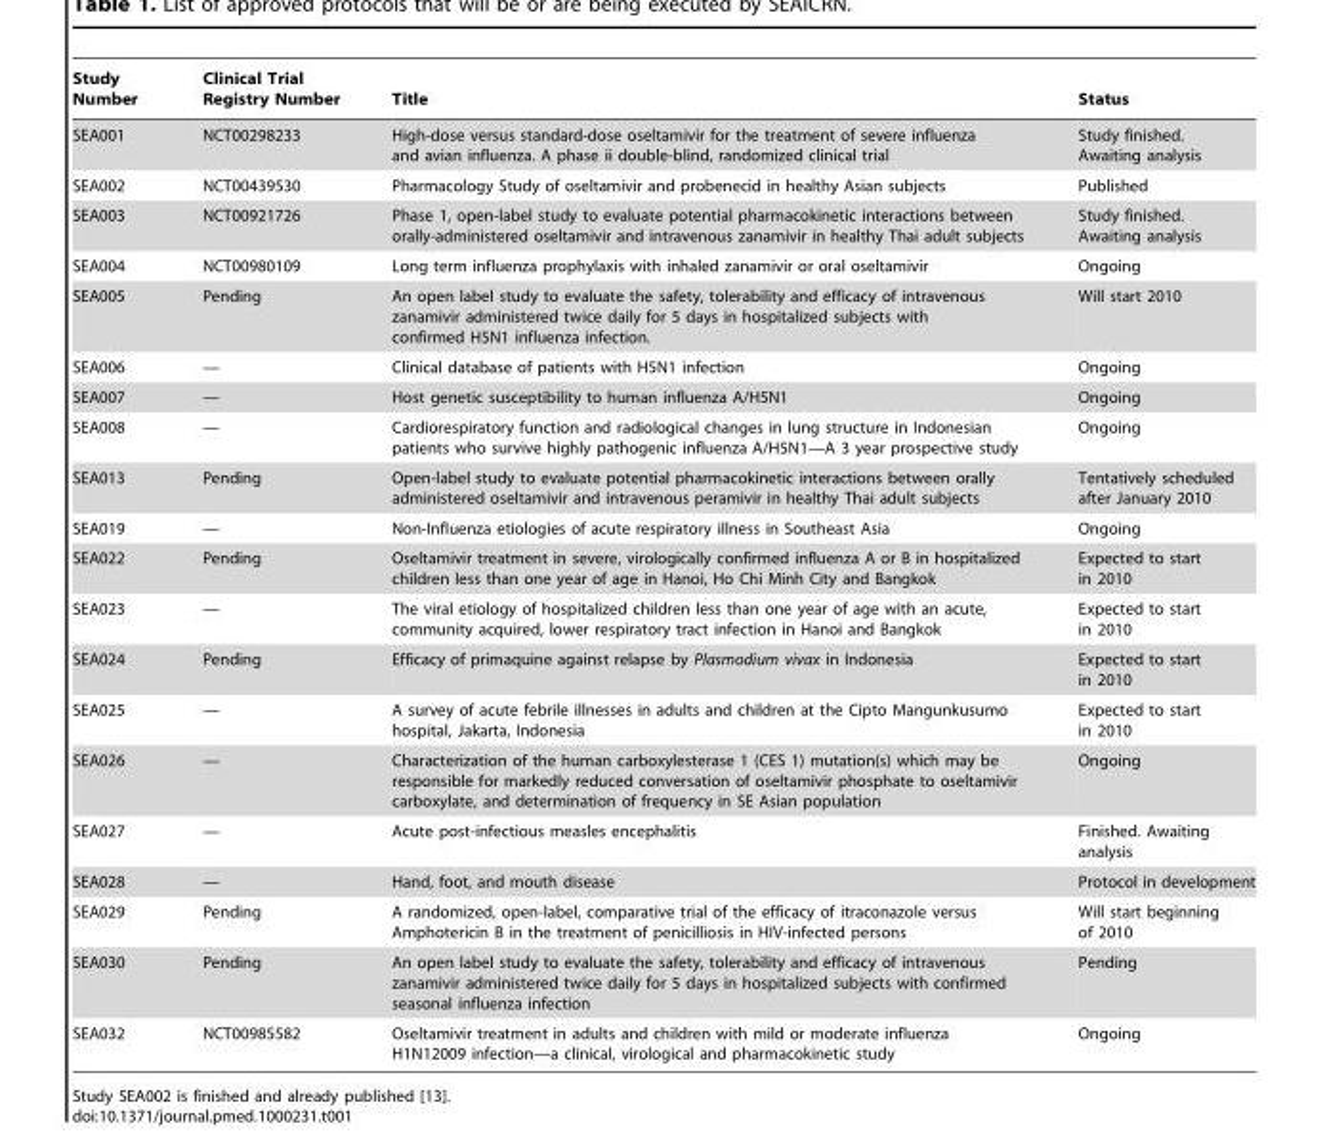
<table><thead><tr><td>Study Number</td><td>Clinical Trial Registry Number</td><td>Title</td><td>Status</td></tr></thead><tbody><tr><td>SEA001</td><td>NCT00298233</td><td>High-dose versus standard-dose oseltamivir for the treatment of severe influenza and avian influenza. A phase ii double-blind, randomized clinical trial</td><td>Study finished. Awaiting analysis</td></tr><tr><td>SEA002</td><td>NCT00439530</td><td>Pharmacology Study of oseltamivir and probenecid in healthy Asian subjects</td><td>Published</td></tr><tr><td>SEA003</td><td>NCT00921726</td><td>Phase 1, open-label study to evaluate potential pharmacokinetic interactions between orally-administered oseltamivir and intravenous zanamivir in healthy Thai adult subjects</td><td>Study finished. Awaiting analysis</td></tr><tr><td>SEA004</td><td>NCT00980109</td><td>Long term influenza prophylaxis with inhaled zanamivir or oral oseltamivir</td><td>Ongoing</td></tr><tr><td>SEA005</td><td>Pending</td><td>An open label study to evaluate the safety, tolerability and efficacy of intravenous zanamivir administered twice daily for 5 days in hospitalized subjects with confirmed H5N1 influenza infection.</td><td>Will start 2010</td></tr><tr><td>SEA006</td><td>—</td><td>Clinical database of patients with H5N1 infection</td><td>Ongoing</td></tr><tr><td>SEA007</td><td>—</td><td>Host genetic susceptibility to human influenza A/H5N1</td><td>Ongoing</td></tr><tr><td>SEA008</td><td>—</td><td>Cardiorespiratory function and radiological changes in lung structure in Indonesian patients who survive highly pathogenic influenza A/H5N1—A 3 year prospective study</td><td>Ongoing</td></tr><tr><td>SEA013</td><td>Pending</td><td>Open-label study to evaluate potential pharmacokinetic interactions between orally administered oseltamivir and intravenous peramivir in healthy Thai adult subjects</td><td>Tentatively scheduled after January 2010</td></tr><tr><td>SEA019</td><td>—</td><td>Non-Influenza etiologies of acute respiratory illness in Southeast Asia</td><td>Ongoing</td></tr><tr><td>SEA022</td><td>Pending</td><td>Oseltamivir treatment in severe, virologically confirmed influenza A or B in hospitalized children less than one year of age in Hanoi, Ho Chi Minh City and Bangkok</td><td>Expected to start in 2010</td></tr><tr><td>SEA023</td><td>—</td><td>The viral etiology of hospitalized children less than one year of age with an acute, community acquired, lower respiratory tract infection in Hanoi and Bangkok</td><td>Expected to start in 2010</td></tr><tr><td>SEA024</td><td>Pending</td><td>Efficacy of primaquine against relapse by Plasmodium vivax in Indonesia</td><td>Expected to start in 2010</td></tr><tr><td>SEA025</td><td>—</td><td>A survey of acute febrile illnesses in adults and children at the Cipto Mangunkusumo hospital, Jakarta, Indonesia</td><td>Expected to start in 2010</td></tr><tr><td>SEA026</td><td>—</td><td>Characterization of the human carboxylesterase 1 (CES 1) mutation(s) which may be responsible for markedly reduced conversation of oseltamivir phosphate to oseltamivir carboxylate, and determination of frequency in SE Asian population</td><td>Ongoing</td></tr><tr><td>SEA027</td><td>—</td><td>Acute post-infectious measles encephalitis</td><td>Finished. Awaiting analysis</td></tr><tr><td>SEA028</td><td>—</td><td>Hand, foot, and mouth disease</td><td>Protocol in development</td></tr><tr><td>SEA029</td><td>Pending</td><td>A randomized, open-label, comparative trial of the efficacy of itraconazole versus Amphotericin B in the treatment of penicilliosis in HIV-infected persons</td><td>Will start beginning of 2010</td></tr><tr><td>SEA030</td><td>Pending</td><td>An open label study to evaluate the safety, tolerability and efficacy of intravenous zanamivir administered twice daily for 5 days in hospitalized subjects with confirmed seasonal influenza infection</td><td>Pending</td></tr><tr><td>SEA032</td><td>NCT00985582</td><td>Oseltamivir treatment in adults and children with mild or moderate influenza H1N12009 infection—a clinical, virological and pharmacokinetic study</td><td>Ongoing</td></tr></tbody></table>